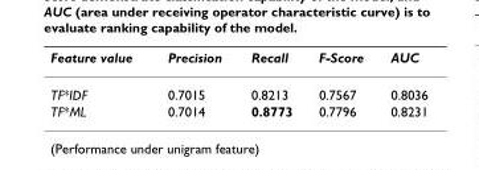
<table><thead><tr><td>Feature value</td><td>Precision</td><td>Recall</td><td>F-Score</td><td>AUC</td></tr></thead><tbody><tr><td>TF*IDF</td><td>0.7015</td><td>0.8213</td><td>0.7567</td><td>0.8036</td></tr><tr><td>TF*ML</td><td>0.7014</td><td>0.8773</td><td>0.7796</td><td>0.8231</td></tr></tbody></table>